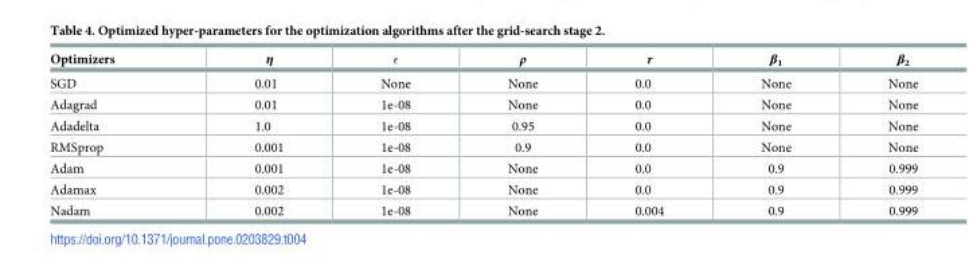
<table><thead><tr><td>Optimizers</td><td>η</td><td>ϵ</td><td>ρ</td><td>r</td><td>β<sub>1</sub></td><td>β<sub>2</sub></td></tr></thead><tbody><tr><td>SGD</td><td>0.01</td><td>None</td><td>None</td><td>0.0</td><td>None</td><td>None</td></tr><tr><td>Adagrad</td><td>0.01</td><td>1e-08</td><td>None</td><td>0.0</td><td>None</td><td>None</td></tr><tr><td>Adadelta</td><td>1.0</td><td>1e-08</td><td>0.95</td><td>0.0</td><td>None</td><td>None</td></tr><tr><td>RMSprop</td><td>0.001</td><td>1e-08</td><td>0.9</td><td>0.0</td><td>None</td><td>None</td></tr><tr><td>Adam</td><td>0.001</td><td>1e-08</td><td>None</td><td>0.0</td><td>0.9</td><td>0.999</td></tr><tr><td>Adamax</td><td>0.002</td><td>1e-08</td><td>None</td><td>0.0</td><td>0.9</td><td>0.999</td></tr><tr><td>Nadam</td><td>0.002</td><td>1e-08</td><td>None</td><td>0.004</td><td>0.9</td><td>0.999</td></tr></tbody></table>